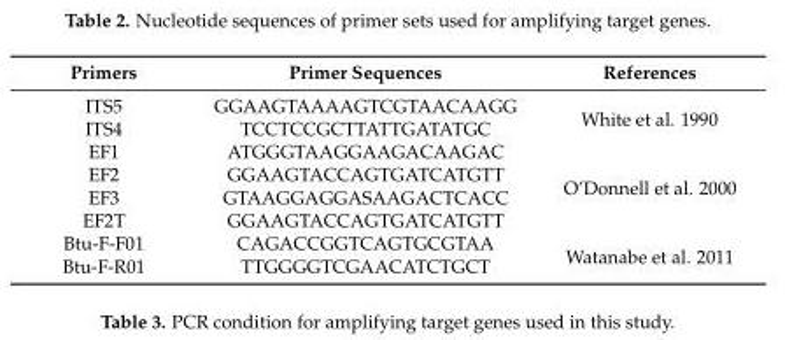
<table><thead><tr><td>Primers</td><td>Primer Sequences</td><td>References</td></tr></thead><tbody><tr><td>ITS5</td><td>GGAAGTAAAAGTCGTAACAAGG</td><td rowspan="2">White et al. 1990</td></tr><tr><td>ITS4</td><td>TCCTCCGCTTATTGATATGC</td></tr><tr><td>EF1</td><td>ATGGGTAAGGAAGACAAGAC</td><td rowspan="4">O’Donnell et al. 2000</td></tr><tr><td>EF2</td><td>GGAAGTACCAGTGATCATGTT</td></tr><tr><td>EF3</td><td>GTAAGGAGGASAAGACTCACC</td></tr><tr><td>EF2T</td><td>GGAAGTACCAGTGATCATGTT</td></tr><tr><td>Btu-F-F01</td><td>CAGACCGGTCAGTGCGTAA</td><td rowspan="2">Watanabe et al. 2011</td></tr><tr><td>Btu-F-R01</td><td>TTGGGGTCGAACATCTGCT</td></tr></tbody></table>